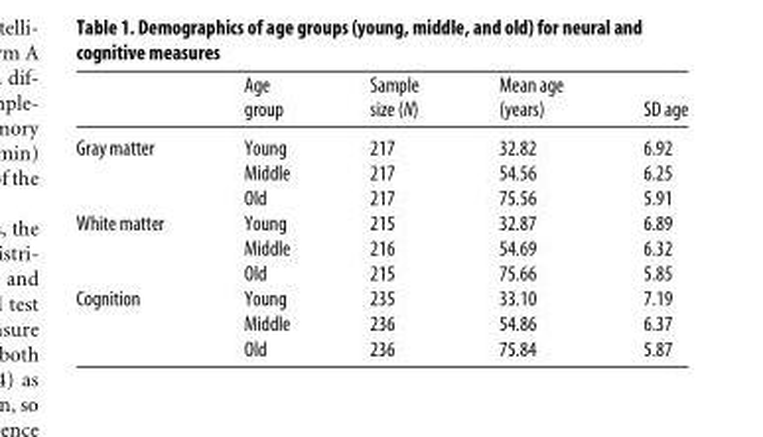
<table><thead><tr><td></td><td>Age group</td><td>Sample size (N)</td><td>Mean age (years)</td><td>SD age</td></tr></thead><tbody><tr><td rowspan="3">Gray matter</td><td>Young</td><td>217</td><td>32.82</td><td>6.92</td></tr><tr><td>Middle</td><td>217</td><td>54.56</td><td>6.25</td></tr><tr><td>Old</td><td>217</td><td>75.56</td><td>5.91</td></tr><tr><td rowspan="3">White matter</td><td>Young</td><td>215</td><td>32.87</td><td>6.89</td></tr><tr><td>Middle</td><td>216</td><td>54.69</td><td>6.32</td></tr><tr><td>Old</td><td>215</td><td>75.66</td><td>5.85</td></tr><tr><td rowspan="3">Cognition</td><td>Young</td><td>235</td><td>33.10</td><td>7.19</td></tr><tr><td>Middle</td><td>236</td><td>54.86</td><td>6.37</td></tr><tr><td>Old</td><td>236</td><td>75.84</td><td>5.87</td></tr></tbody></table>